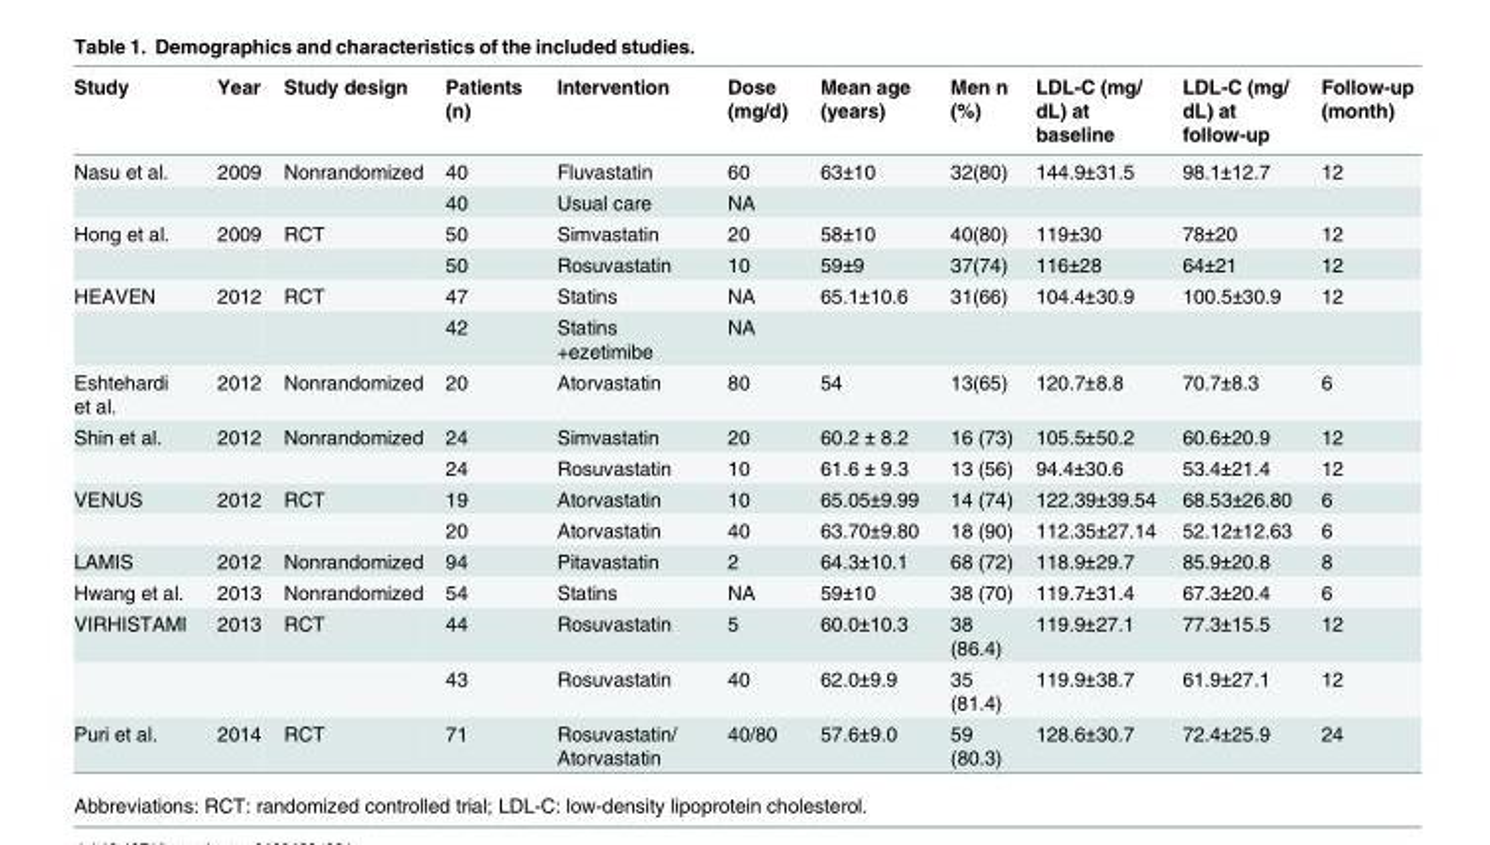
<table><thead><tr><td>Study</td><td>Year</td><td>Study design</td><td>Patients (n)</td><td>Intervention</td><td>Dose (mg/d)</td><td>Mean age (years)</td><td>Men n (%)</td><td>LDL-C (mg/ dL) at baseline</td><td>LDL-C (mg/ dL) at follow-up</td><td>Follow-up (month)</td></tr></thead><tbody><tr><td rowspan="2">Nasu et al.</td><td>2009</td><td>Nonrandomized</td><td>40</td><td>Fluvastatin</td><td>60</td><td>63±10</td><td>32(80)</td><td>144.9±31.5</td><td>98.1±12.7</td><td>12</td></tr><tr><td></td><td></td><td>40</td><td>Usual care</td><td>NA</td><td></td><td></td><td></td><td></td><td></td></tr><tr><td rowspan="2">Hong et al.</td><td>2009</td><td>RCT</td><td>50</td><td>Simvastatin</td><td>20</td><td>58±10</td><td>40(80)</td><td>119±30</td><td>78±20</td><td>12</td></tr><tr><td></td><td></td><td>50</td><td>Rosuvastatin</td><td>10</td><td>59±9</td><td>37(74)</td><td>116±28</td><td>64±21</td><td>12</td></tr><tr><td rowspan="2">HEAVEN</td><td>2012</td><td>RCT</td><td>47</td><td>Statins</td><td>NA</td><td>65.1±10.6</td><td>31(66)</td><td>104.4±30.9</td><td>100.5±30.9</td><td>12</td></tr><tr><td></td><td></td><td>42</td><td>Statins +ezetimibe</td><td>NA</td><td></td><td></td><td></td><td></td><td></td></tr><tr><td>Eshtehardi et al.</td><td>2012</td><td>Nonrandomized</td><td>20</td><td>Atorvastatin</td><td>80</td><td>54</td><td>13(65)</td><td>120.7±8.8</td><td>70.7±8.3</td><td>6</td></tr><tr><td rowspan="2">Shin et al.</td><td>2012</td><td>Nonrandomized</td><td>24</td><td>Simvastatin</td><td>20</td><td>60.2 ± 8.2</td><td>16 (73)</td><td>105.5±50.2</td><td>60.6±20.9</td><td>12</td></tr><tr><td></td><td></td><td>24</td><td>Rosuvastatin</td><td>10</td><td>61.6 ± 9.3</td><td>13 (56)</td><td>94.4±30.6</td><td>53.4±21.4</td><td>12</td></tr><tr><td rowspan="2">VENUS</td><td>2012</td><td>RCT</td><td>19</td><td>Atorvastatin</td><td>10</td><td>65.05±9.99</td><td>14 (74)</td><td>122.39±39.54</td><td>68.53±26.80</td><td>6</td></tr><tr><td></td><td></td><td>20</td><td>Atorvastatin</td><td>40</td><td>63.70±9.80</td><td>18 (90)</td><td>112.35±27.14</td><td>52.12±12.63</td><td>6</td></tr><tr><td>LAMIS</td><td>2012</td><td>Nonrandomized</td><td>94</td><td>Pitavastatin</td><td>2</td><td>64.3±10.1</td><td>68 (72)</td><td>118.9±29.7</td><td>85.9±20.8</td><td>8</td></tr><tr><td>Hwang et al.</td><td>2013</td><td>Nonrandomized</td><td>54</td><td>Statins</td><td>NA</td><td>59±10</td><td>38 (70)</td><td>119.7±31.4</td><td>67.3±20.4</td><td>6</td></tr><tr><td rowspan="2">VIRHISTAMI</td><td>2013</td><td>RCT</td><td>44</td><td>Rosuvastatin</td><td>5</td><td>60.0±10.3</td><td>38 (86.4)</td><td>119.9±27.1</td><td>77.3±15.5</td><td>12</td></tr><tr><td></td><td></td><td>43</td><td>Rosuvastatin</td><td>40</td><td>62.0±9.9</td><td>35 (81.4)</td><td>119.9±38.7</td><td>61.9±27.1</td><td>12</td></tr><tr><td>Puri et al.</td><td>2014</td><td>RCT</td><td>71</td><td>Rosuvastatin/ Atorvastatin</td><td>40/80</td><td>57.6±9.0</td><td>59 (80.3)</td><td>128.6±30.7</td><td>72.4±25.9</td><td>24</td></tr></tbody></table>